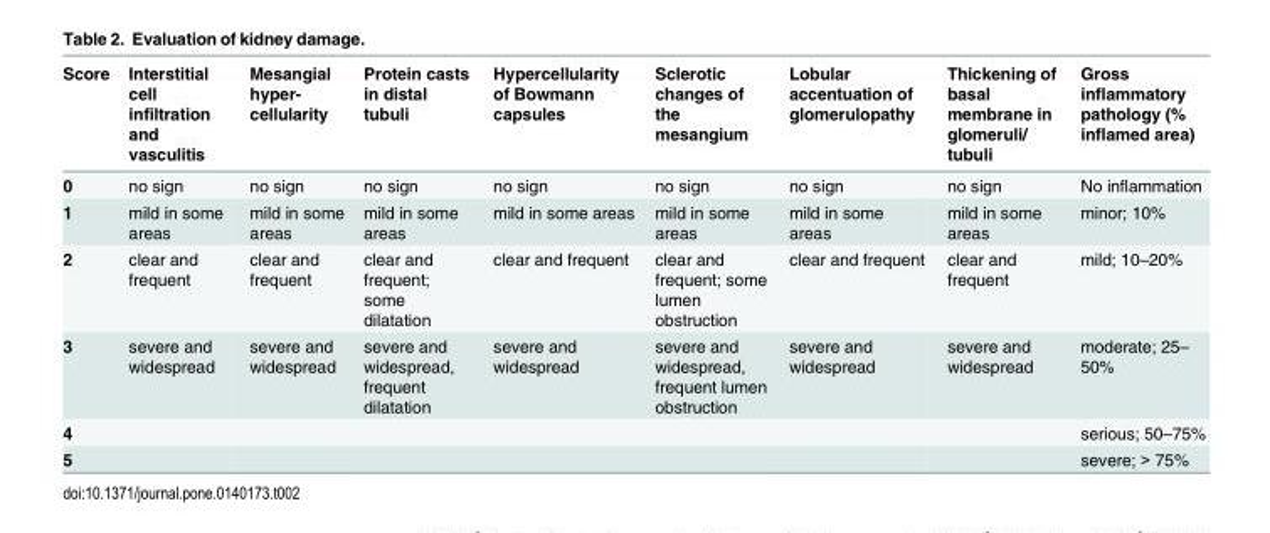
<table><thead><tr><td>Score</td><td>Interstitial cell infiltration and vasculitis</td><td>Mesangial hyper- cellularity</td><td>Protein casts in distal tubuli</td><td>Hypercellularity of Bowmann capsules</td><td>Sclerotic changes of the mesangium</td><td>Lobular accentuation of glomerulopathy</td><td>Thickening of basal membrane in glomeruli/ tubuli</td><td>Gross inflammatory pathology (% inflamed area)</td></tr></thead><tbody><tr><td>0</td><td>no sign</td><td>no sign</td><td>no sign</td><td>no sign</td><td>no sign</td><td>no sign</td><td>no sign</td><td>No inflammation</td></tr><tr><td>1</td><td>mild in some areas</td><td>mild in some areas</td><td>mild in some areas</td><td>mild in some areas</td><td>mild in some areas</td><td>mild in some areas</td><td>mild in some areas</td><td>minor; 10%</td></tr><tr><td>2</td><td>clear and frequent</td><td>clear and frequent</td><td>clear and frequent; some dilatation</td><td>clear and frequent</td><td>clear and frequent; some lumen obstruction</td><td>clear and frequent</td><td>clear and frequent</td><td>mild; 10–20%</td></tr><tr><td>3</td><td>severe and widespread</td><td>severe and widespread</td><td>severe and widespread, frequent dilatation</td><td>severe and widespread</td><td>severe and widespread, frequent lumen obstruction</td><td>severe and widespread</td><td>severe and widespread</td><td>moderate; 25– 50%</td></tr><tr><td>4</td><td></td><td></td><td></td><td></td><td></td><td></td><td></td><td>serious; 50–75%</td></tr><tr><td>5</td><td></td><td></td><td></td><td></td><td></td><td></td><td></td><td>severe; &gt; 75%</td></tr></tbody></table>